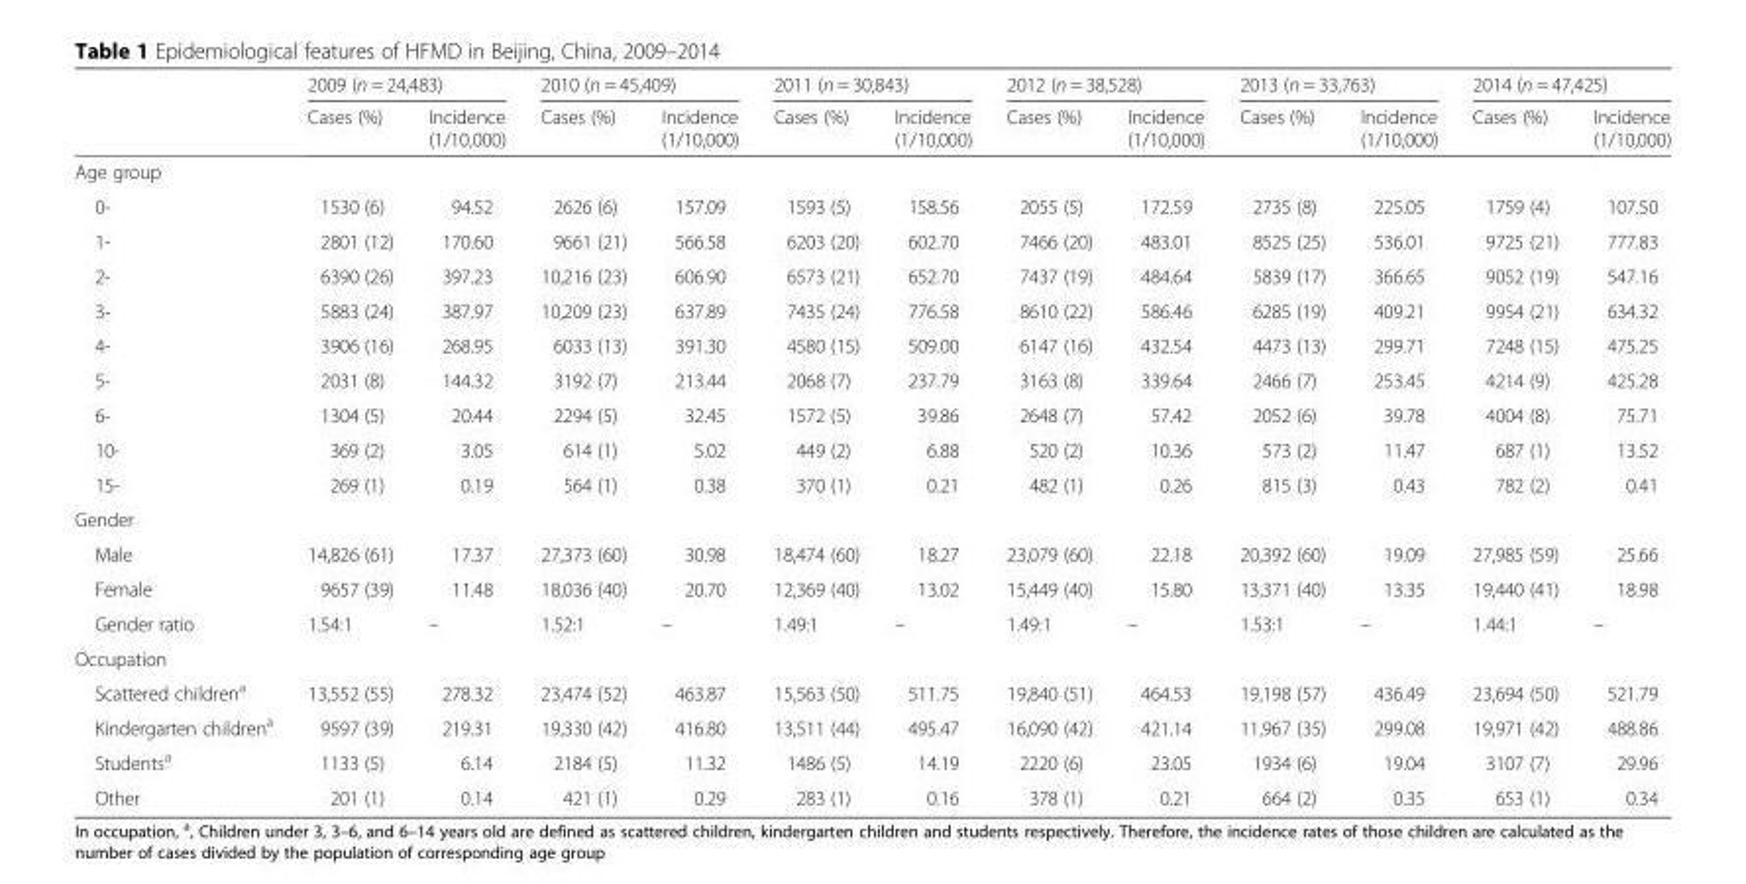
<table><thead><tr><td rowspan="2"></td><td colspan="2">2009 (n = 24,483)</td><td colspan="2">2010 (n = 45,409)</td><td colspan="2">2011 (n = 30,843)</td><td colspan="2">2012 (n = 38,528)</td><td colspan="2">2013 (n = 33,763)</td><td colspan="2">2014 (n = 47,425)</td></tr><tr><td>Cases (%)</td><td>Incidence (1/10,000)</td><td>Cases (%)</td><td>Incidence (1/10,000)</td><td>Cases (%)</td><td>Incidence (1/10,000)</td><td>Cases (%)</td><td>Incidence (1/10,000)</td><td>Cases (%)</td><td>Incidence (1/10,000)</td><td>Cases (%)</td><td>Incidence (1/10,000)</td></tr></thead><tbody><tr><td colspan="13">Age group</td></tr><tr><td>0-</td><td>1530 (6)</td><td>94.52</td><td>2626 (6)</td><td>157.09</td><td>1593 (5)</td><td>158.56</td><td>2055 (5)</td><td>172.59</td><td>2735 (8)</td><td>225.05</td><td>1759 (4)</td><td>107.50</td></tr><tr><td>1-</td><td>2801 (12)</td><td>170.60</td><td>9661 (21)</td><td>566.58</td><td>6203 (20)</td><td>602.70</td><td>7466 (20)</td><td>483.01</td><td>8525 (25)</td><td>536.01</td><td>9725 (21)</td><td>777.83</td></tr><tr><td>2-</td><td>6390 (26)</td><td>397.23</td><td>10,216 (23)</td><td>606.90</td><td>6573 (21)</td><td>652.70</td><td>7437 (19)</td><td>484.64</td><td>5839 (17)</td><td>366.65</td><td>9052 (19)</td><td>547.16</td></tr><tr><td>3-</td><td>5883 (24)</td><td>387.97</td><td>10,209 (23)</td><td>637.89</td><td>7435 (24)</td><td>776.58</td><td>8610 (22)</td><td>586.46</td><td>6285 (19)</td><td>409.21</td><td>9954 (21)</td><td>634.32</td></tr><tr><td>4-</td><td>3906 (16)</td><td>268.95</td><td>6033 (13)</td><td>391.30</td><td>4580 (15)</td><td>509.00</td><td>6147 (16)</td><td>432.54</td><td>4473 (13)</td><td>299.71</td><td>7248 (15)</td><td>475.25</td></tr><tr><td>5-</td><td>2031 (8)</td><td>144.32</td><td>3192 (7)</td><td>213.44</td><td>2068 (7)</td><td>237.79</td><td>3163 (8)</td><td>339.64</td><td>2466 (7)</td><td>253.45</td><td>4214 (9)</td><td>425.28</td></tr><tr><td>6-</td><td>1304 (5)</td><td>20.44</td><td>2294 (5)</td><td>32.45</td><td>1572 (5)</td><td>39.86</td><td>2648 (7)</td><td>57.42</td><td>2052 (6)</td><td>39.78</td><td>4004 (8)</td><td>75.71</td></tr><tr><td>10-</td><td>369 (2)</td><td>3.05</td><td>614 (1)</td><td>5.02</td><td>449 (2)</td><td>6.88</td><td>520 (2)</td><td>10.36</td><td>573 (2)</td><td>11.47</td><td>687 (1)</td><td>13.52</td></tr><tr><td>15-</td><td>269 (1)</td><td>0.19</td><td>564 (1)</td><td>0.38</td><td>370 (1)</td><td>0.21</td><td>482 (1)</td><td>0.26</td><td>815 (3)</td><td>0.43</td><td>782 (2)</td><td>0.41</td></tr><tr><td colspan="13">Gender</td></tr><tr><td>Male</td><td>14,826 (61)</td><td>17.37</td><td>27,373 (60)</td><td>30.98</td><td>18,474 (60)</td><td>18.27</td><td>23,079 (60)</td><td>22.18</td><td>20,392 (60)</td><td>19.09</td><td>27,985 (59)</td><td>25.66</td></tr><tr><td>Female</td><td>9657 (39)</td><td>11.48</td><td>18,036 (40)</td><td>20.70</td><td>12,369 (40)</td><td>13.02</td><td>15,449 (40)</td><td>15.80</td><td>13,371 (40)</td><td>13.35</td><td>19,440 (41)</td><td>18.98</td></tr><tr><td>Gender ratio</td><td>1.54:1</td><td>–</td><td>1.52:1</td><td>–</td><td>1.49:1</td><td>–</td><td>1.49:1</td><td>–</td><td>1.53:1</td><td>–</td><td>1.44:1</td><td>–</td></tr><tr><td colspan="13">Occupation</td></tr><tr><td>Scattered children<sup>a</sup></td><td>13,552 (55)</td><td>278.32</td><td>23,474 (52)</td><td>463.87</td><td>15,563 (50)</td><td>511.75</td><td>19,840 (51)</td><td>464.53</td><td>19,198 (57)</td><td>436.49</td><td>23,694 (50)</td><td>521.79</td></tr><tr><td>Kindergarten children<sup>a</sup></td><td>9597 (39)</td><td>219.31</td><td>19,330 (42)</td><td>416.80</td><td>13,511 (44)</td><td>495.47</td><td>16,090 (42)</td><td>421.14</td><td>11,967 (35)</td><td>299.08</td><td>19,971 (42)</td><td>488.86</td></tr><tr><td>Students<sup>a</sup></td><td>1133 (5)</td><td>6.14</td><td>2184 (5)</td><td>11.32</td><td>1486 (5)</td><td>14.19</td><td>2220 (6)</td><td>23.05</td><td>1934 (6)</td><td>19.04</td><td>3107 (7)</td><td>29.96</td></tr><tr><td>Other</td><td>201 (1)</td><td>0.14</td><td>421 (1)</td><td>0.29</td><td>283 (1)</td><td>0.16</td><td>378 (1)</td><td>0.21</td><td>664 (2)</td><td>0.35</td><td>653 (1)</td><td>0.34</td></tr></tbody></table>